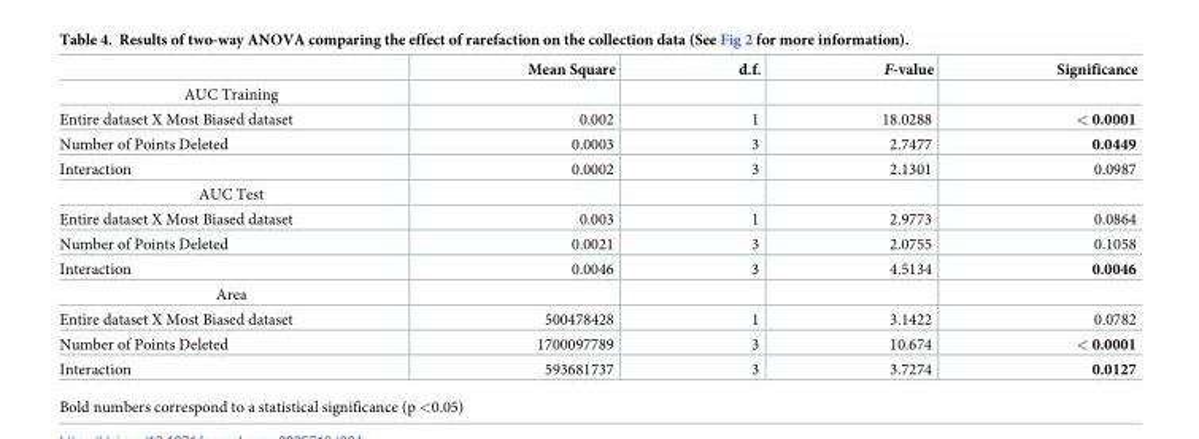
<table><thead><tr><td></td><td>Mean Square</td><td>d.f.</td><td>F-value</td><td>Significance</td></tr></thead><tbody><tr><td colspan="5">AUC Training</td></tr><tr><td>Entire dataset X Most Biased dataset</td><td>0.002</td><td>1</td><td>18.0288</td><td>&lt; 0.0001</td></tr><tr><td>Number of Points Deleted</td><td>0.0003</td><td>3</td><td>2.7477</td><td>0.0449</td></tr><tr><td>Interaction</td><td>0.0002</td><td>3</td><td>2.1301</td><td>0.0987</td></tr><tr><td colspan="5">AUC Test</td></tr><tr><td>Entire dataset X Most Biased dataset</td><td>0.003</td><td>1</td><td>2.9773</td><td>0.0864</td></tr><tr><td>Number of Points Deleted</td><td>0.0021</td><td>3</td><td>2.0755</td><td>0.1058</td></tr><tr><td>Interaction</td><td>0.0046</td><td>3</td><td>4.5134</td><td>0.0046</td></tr><tr><td colspan="5">Area</td></tr><tr><td>Entire dataset X Most Biased dataset</td><td>500478428</td><td>1</td><td>3.1422</td><td>0.0782</td></tr><tr><td>Number of Points Deleted</td><td>1700097789</td><td>3</td><td>10.674</td><td>&lt; 0.0001</td></tr><tr><td>Interaction</td><td>593681737</td><td>3</td><td>3.7274</td><td>0.0127</td></tr></tbody></table>